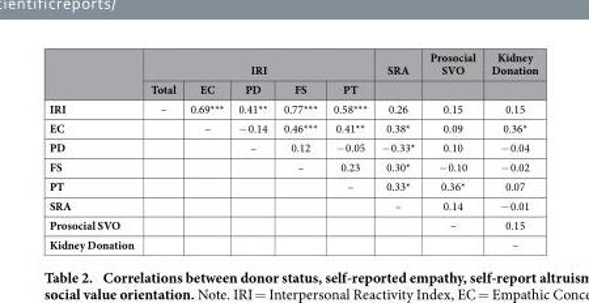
<table><thead><tr><td rowspan="2"></td><td colspan="5">IRI</td><td rowspan="2">SRA</td><td rowspan="2">Prosocial SVO</td><td rowspan="2">Kidney Donation</td></tr><tr><td>Total</td><td>EC</td><td>PD</td><td>FS</td><td>PT</td></tr></thead><tbody><tr><td>IRI</td><td>–</td><td>0.69***</td><td>0.41**</td><td>0.77***</td><td>0.58***</td><td>0.26</td><td>0.15</td><td>0.15</td></tr><tr><td>EC</td><td></td><td>–</td><td>− 0.14</td><td>0.46***</td><td>0.41**</td><td>0.38*</td><td>0.09</td><td>0.36*</td></tr><tr><td>PD</td><td></td><td></td><td>–</td><td>0.12</td><td>− 0.05</td><td>− 0.33*</td><td>0.10</td><td>− 0.04</td></tr><tr><td>FS</td><td></td><td></td><td></td><td>–</td><td>0.23</td><td>0.30*</td><td>− 0.10</td><td>− 0.02</td></tr><tr><td>PT</td><td></td><td></td><td></td><td></td><td>–</td><td>0.33*</td><td>0.36*</td><td>0.07</td></tr><tr><td>SRA</td><td></td><td></td><td></td><td></td><td></td><td>–</td><td>0.14</td><td>− 0.01</td></tr><tr><td>Prosocial SVO</td><td></td><td></td><td></td><td></td><td></td><td></td><td>–</td><td>0.15</td></tr><tr><td>Kidney Donation</td><td></td><td></td><td></td><td></td><td></td><td></td><td></td><td>–</td></tr></tbody></table>